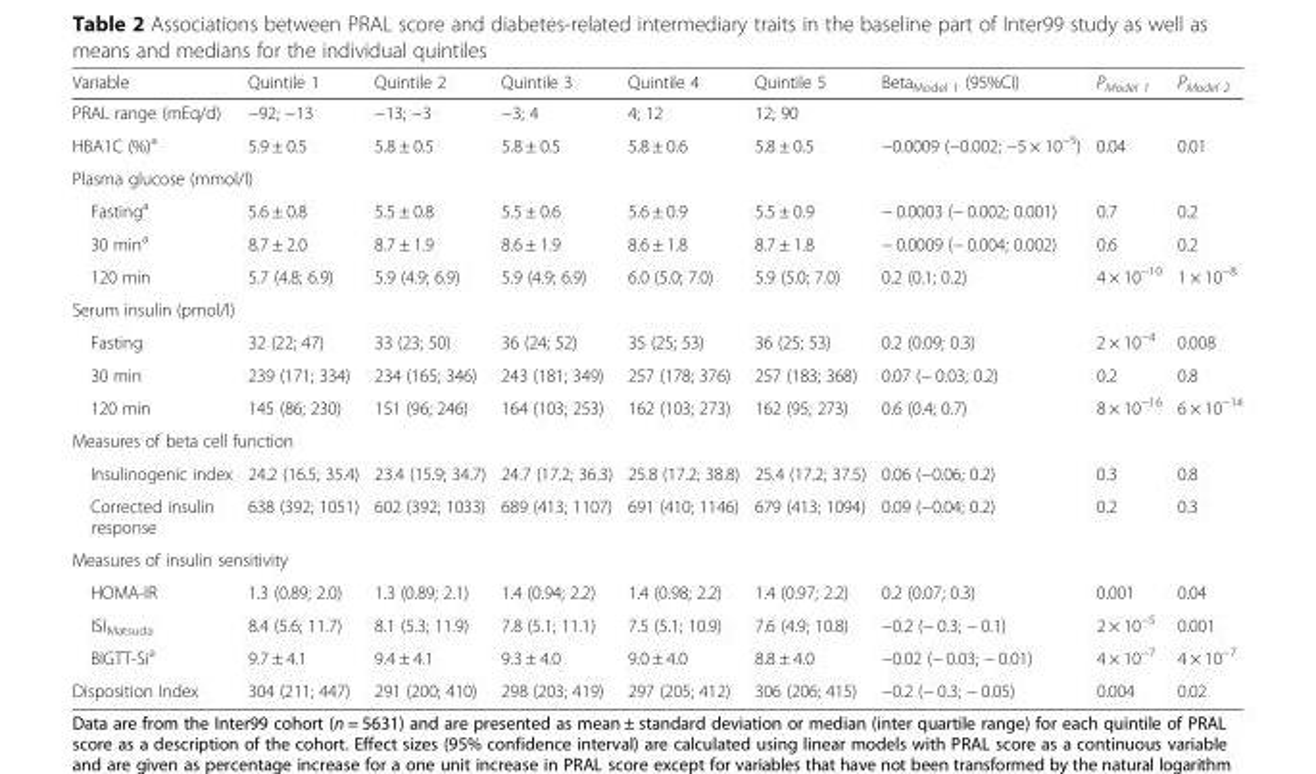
<table><thead><tr><td>Variable</td><td>Quintile 1</td><td>Quintile 2</td><td>Quintile 3</td><td>Quintile 4</td><td>Quintile 5</td><td>Beta<sub>Model 1</sub> (95%CI)</td><td>P<sub>Model 1</sub></td><td>P<sub>Model 2</sub></td></tr></thead><tbody><tr><td>PRAL range (mEq/d)</td><td>−92; −13</td><td>−13; −3</td><td>−3; 4</td><td>4; 12</td><td>12; 90</td><td></td><td></td><td></td></tr><tr><td>HBA1C (%)<sup>a</sup></td><td>5.9 ± 0.5</td><td>5.8 ± 0.5</td><td>5.8 ± 0.5</td><td>5.8 ± 0.6</td><td>5.8 ± 0.5</td><td>−0.0009 (−0.002; −5 × 10<sup>−5</sup>)</td><td>0.04</td><td>0.01</td></tr><tr><td colspan="9">Plasma glucose (mmol/l)</td></tr><tr><td>Fasting<sup>a</sup></td><td>5.6 ± 0.8</td><td>5.5 ± 0.8</td><td>5.5 ± 0.6</td><td>5.6 ± 0.9</td><td>5.5 ± 0.9</td><td>− 0.0003 (− 0.002; 0.001)</td><td>0.7</td><td>0.2</td></tr><tr><td>30 min<sup>a</sup></td><td>8.7 ± 2.0</td><td>8.7 ± 1.9</td><td>8.6 ± 1.9</td><td>8.6 ± 1.8</td><td>8.7 ± 1.8</td><td>− 0.0009 (− 0.004; 0.002)</td><td>0.6</td><td>0.2</td></tr><tr><td>120 min</td><td>5.7 (4.8; 6.9)</td><td>5.9 (4.9; 6.9)</td><td>5.9 (4.9; 6.9)</td><td>6.0 (5.0; 7.0)</td><td>5.9 (5.0; 7.0)</td><td>0.2 (0.1; 0.2)</td><td>4 × 10<sup>−10</sup></td><td>1 × 10<sup>−8</sup></td></tr><tr><td colspan="9">Serum insulin (pmol/l)</td></tr><tr><td>Fasting</td><td>32 (22; 47)</td><td>33 (23; 50)</td><td>36 (24; 52)</td><td>35 (25; 53)</td><td>36 (25; 53)</td><td>0.2 (0.09; 0.3)</td><td>2 × 10<sup>−4</sup></td><td>0.008</td></tr><tr><td>30 min</td><td>239 (171; 334)</td><td>234 (165; 346)</td><td>243 (181; 349)</td><td>257 (178; 376)</td><td>257 (183; 368)</td><td>0.07 (− 0.03; 0.2)</td><td>0.2</td><td>0.8</td></tr><tr><td>120 min</td><td>145 (86; 230)</td><td>151 (96; 246)</td><td>164 (103; 253)</td><td>162 (103; 273)</td><td>162 (95; 273)</td><td>0.6 (0.4; 0.7)</td><td>8 × 10<sup>−16</sup></td><td>6 × 10<sup>−14</sup></td></tr><tr><td colspan="9">Measures of beta cell function</td></tr><tr><td>Insulinogenic index</td><td>24.2 (16.5; 35.4)</td><td>23.4 (15.9; 34.7)</td><td>24.7 (17.2; 36.3)</td><td>25.8 (17.2; 38.8)</td><td>25.4 (17.2; 37.5)</td><td>0.06 (−0.06; 0.2)</td><td>0.3</td><td>0.8</td></tr><tr><td>Corrected insulin response</td><td>638 (392; 1051)</td><td>602 (392; 1033)</td><td>689 (413; 1107)</td><td>691 (410; 1146)</td><td>679 (413; 1094)</td><td>0.09 (−0.04; 0.2)</td><td>0.2</td><td>0.3</td></tr><tr><td colspan="9">Measures of insulin sensitivity</td></tr><tr><td>HOMA-IR</td><td>1.3 (0.89; 2.0)</td><td>1.3 (0.89; 2.1)</td><td>1.4 (0.94; 2.2)</td><td>1.4 (0.98; 2.2)</td><td>1.4 (0.97; 2.2)</td><td>0.2 (0.07; 0.3)</td><td>0.001</td><td>0.04</td></tr><tr><td>ISI<sub>Matsuda</sub></td><td>8.4 (5.6; 11.7)</td><td>8.1 (5.3; 11.9)</td><td>7.8 (5.1; 11.1)</td><td>7.5 (5.1; 10.9)</td><td>7.6 (4.9; 10.8)</td><td>−0.2 (− 0.3; − 0.1)</td><td>2 × 10<sup>−5</sup></td><td>0.001</td></tr><tr><td>BIGTT-Si<sup>a</sup></td><td>9.7 ± 4.1</td><td>9.4 ± 4.1</td><td>9.3 ± 4.0</td><td>9.0 ± 4.0</td><td>8.8 ± 4.0</td><td>−0.02 (− 0.03; − 0.01)</td><td>4 × 10<sup>−7</sup></td><td>4 × 10<sup>−7</sup></td></tr><tr><td>Disposition Index</td><td>304 (211; 447)</td><td>291 (200; 410)</td><td>298 (203; 419)</td><td>297 (205; 412)</td><td>306 (206; 415)</td><td>−0.2 (− 0.3; − 0.05)</td><td>0.004</td><td>0.02</td></tr></tbody></table>